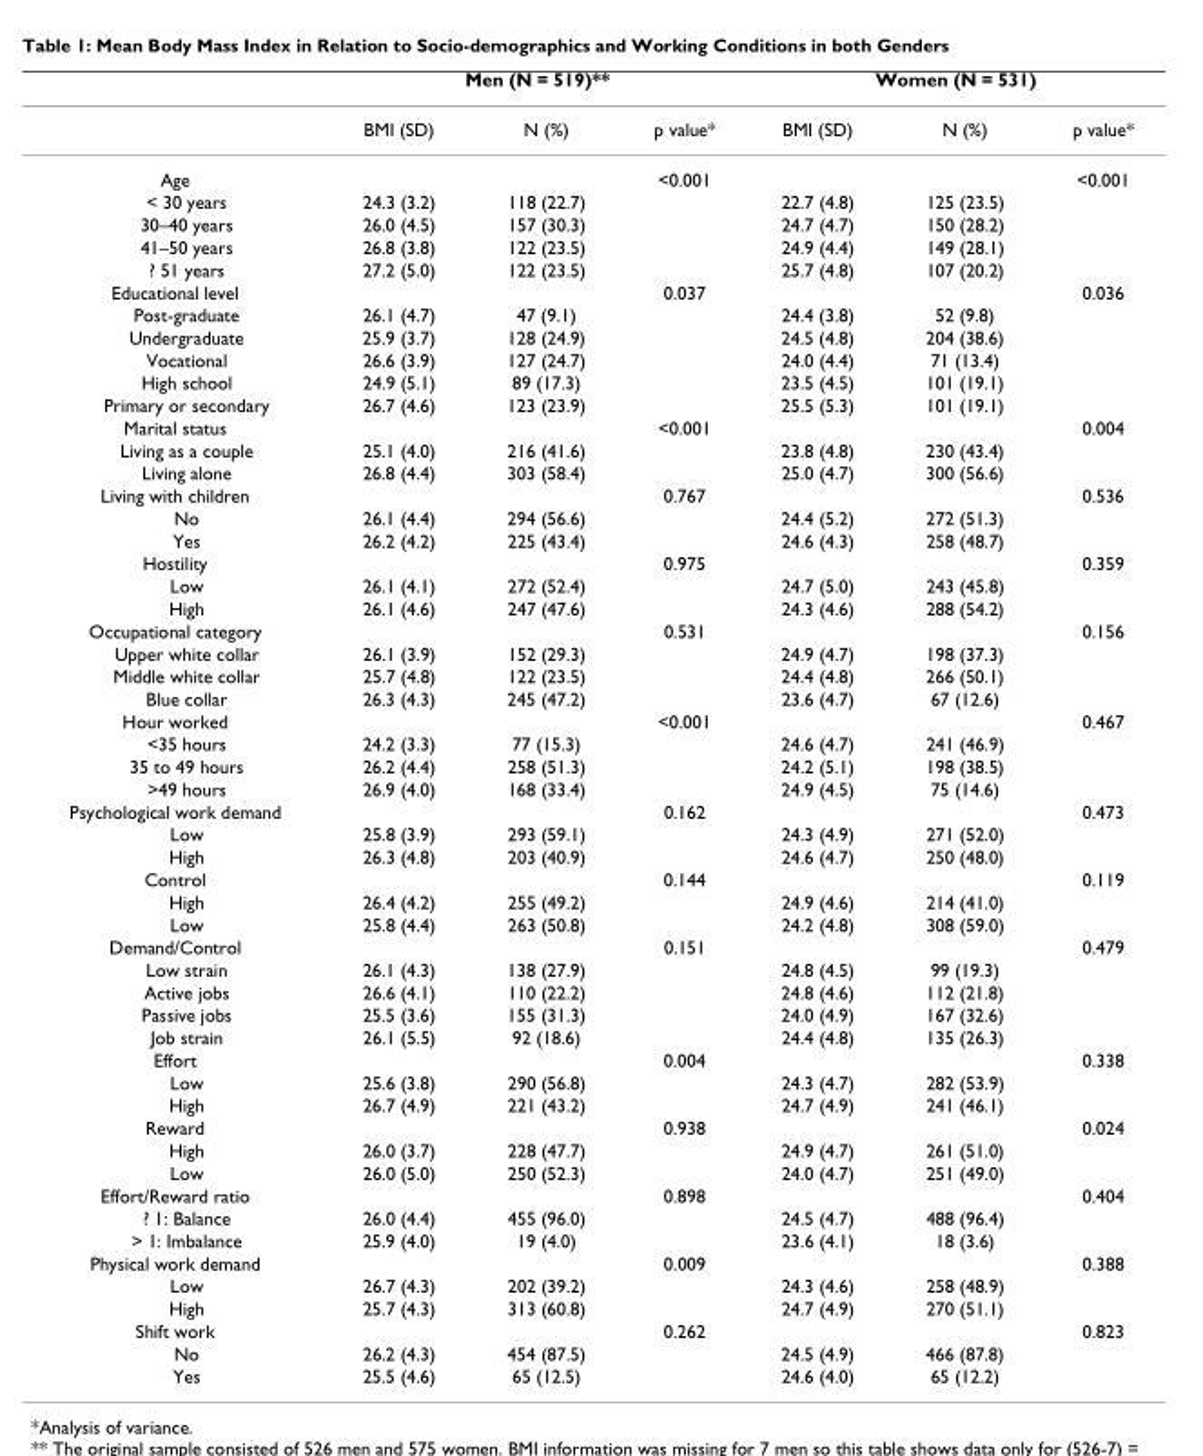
<table><thead><tr><td rowspan="2"></td><td colspan="3">Men (N = 519)**</td><td colspan="3">Women (N = 531)</td></tr><tr><td>BMI (SD)</td><td>N (%)</td><td>p value*</td><td>BMI (SD)</td><td>N (%)</td><td>p value*</td></tr></thead><tbody><tr><td>Age</td><td></td><td></td><td>&lt;0.001</td><td></td><td></td><td>&lt;0.001</td></tr><tr><td>&lt; 30 years</td><td>24.3 (3.2)</td><td>118 (22.7)</td><td></td><td>22.7 (4.8)</td><td>125 (23.5)</td><td></td></tr><tr><td>30–40 years</td><td>26.0 (4.5)</td><td>157 (30.3)</td><td></td><td>24.7 (4.7)</td><td>150 (28.2)</td><td></td></tr><tr><td>41–50 years</td><td>26.8 (3.8)</td><td>122 (23.5)</td><td></td><td>24.9 (4.4)</td><td>149 (28.1)</td><td></td></tr><tr><td>? 51 years</td><td>27.2 (5.0)</td><td>122 (23.5)</td><td></td><td>25.7 (4.8)</td><td>107 (20.2)</td><td></td></tr><tr><td>Educational level</td><td></td><td></td><td>0.037</td><td></td><td></td><td>0.036</td></tr><tr><td>Post-graduate</td><td>26.1 (4.7)</td><td>47 (9.1)</td><td></td><td>24.4 (3.8)</td><td>52 (9.8)</td><td></td></tr><tr><td>Undergraduate</td><td>25.9 (3.7)</td><td>128 (24.9)</td><td></td><td>24.5 (4.8)</td><td>204 (38.6)</td><td></td></tr><tr><td>Vocational</td><td>26.6 (3.9)</td><td>127 (24.7)</td><td></td><td>24.0 (4.4)</td><td>71 (13.4)</td><td></td></tr><tr><td>High school</td><td>24.9 (5.1)</td><td>89 (17.3)</td><td></td><td>23.5 (4.5)</td><td>101 (19.1)</td><td></td></tr><tr><td>Primary or secondary</td><td>26.7 (4.6)</td><td>123 (23.9)</td><td></td><td>25.5 (5.3)</td><td>101 (19.1)</td><td></td></tr><tr><td>Marital status</td><td></td><td></td><td>&lt;0.001</td><td></td><td></td><td>0.004</td></tr><tr><td>Living as a couple</td><td>25.1 (4.0)</td><td>216 (41.6)</td><td></td><td>23.8 (4.8)</td><td>230 (43.4)</td><td></td></tr><tr><td>Living alone</td><td>26.8 (4.4)</td><td>303 (58.4)</td><td></td><td>25.0 (4.7)</td><td>300 (56.6)</td><td></td></tr><tr><td>Living with children</td><td></td><td></td><td>0.767</td><td></td><td></td><td>0.536</td></tr><tr><td>No</td><td>26.1 (4.4)</td><td>294 (56.6)</td><td></td><td>24.4 (5.2)</td><td>272 (51.3)</td><td></td></tr><tr><td>Yes</td><td>26.2 (4.2)</td><td>225 (43.4)</td><td></td><td>24.6 (4.3)</td><td>258 (48.7)</td><td></td></tr><tr><td>Hostility</td><td></td><td></td><td>0.975</td><td></td><td></td><td>0.359</td></tr><tr><td>Low</td><td>26.1 (4.1)</td><td>272 (52.4)</td><td></td><td>24.7 (5.0)</td><td>243 (45.8)</td><td></td></tr><tr><td>High</td><td>26.1 (4.6)</td><td>247 (47.6)</td><td></td><td>24.3 (4.6)</td><td>288 (54.2)</td><td></td></tr><tr><td>Occupational category</td><td></td><td></td><td>0.531</td><td></td><td></td><td>0.156</td></tr><tr><td>Upper white collar</td><td>26.1 (3.9)</td><td>152 (29.3)</td><td></td><td>24.9 (4.7)</td><td>198 (37.3)</td><td></td></tr><tr><td>Middle white collar</td><td>25.7 (4.8)</td><td>122 (23.5)</td><td></td><td>24.4 (4.8)</td><td>266 (50.1)</td><td></td></tr><tr><td>Blue collar</td><td>26.3 (4.3)</td><td>245 (47.2)</td><td></td><td>23.6 (4.7)</td><td>67 (12.6)</td><td></td></tr><tr><td>Hour worked</td><td></td><td></td><td>&lt;0.001</td><td></td><td></td><td>0.467</td></tr><tr><td>&lt;35 hours</td><td>24.2 (3.3)</td><td>77 (15.3)</td><td></td><td>24.6 (4.7)</td><td>241 (46.9)</td><td></td></tr><tr><td>35 to 49 hours</td><td>26.2 (4.4)</td><td>258 (51.3)</td><td></td><td>24.2 (5.1)</td><td>198 (38.5)</td><td></td></tr><tr><td>&gt;49 hours</td><td>26.9 (4.0)</td><td>168 (33.4)</td><td></td><td>24.9 (4.5)</td><td>75 (14.6)</td><td></td></tr><tr><td>Psychological work demand</td><td></td><td></td><td>0.162</td><td></td><td></td><td>0.473</td></tr><tr><td>Low</td><td>25.8 (3.9)</td><td>293 (59.1)</td><td></td><td>24.3 (4.9)</td><td>271 (52.0)</td><td></td></tr><tr><td>High</td><td>26.3 (4.8)</td><td>203 (40.9)</td><td></td><td>24.6 (4.7)</td><td>250 (48.0)</td><td></td></tr><tr><td>Control</td><td></td><td></td><td>0.144</td><td></td><td></td><td>0.119</td></tr><tr><td>High</td><td>26.4 (4.2)</td><td>255 (49.2)</td><td></td><td>24.9 (4.6)</td><td>214 (41.0)</td><td></td></tr><tr><td>Low</td><td>25.8 (4.4)</td><td>263 (50.8)</td><td></td><td>24.2 (4.8)</td><td>308 (59.0)</td><td></td></tr><tr><td>Demand/Control</td><td></td><td></td><td>0.151</td><td></td><td></td><td>0.479</td></tr><tr><td>Low strain</td><td>26.1 (4.3)</td><td>138 (27.9)</td><td></td><td>24.8 (4.5)</td><td>99 (19.3)</td><td></td></tr><tr><td>Active jobs</td><td>26.6 (4.1)</td><td>110 (22.2)</td><td></td><td>24.8 (4.6)</td><td>112 (21.8)</td><td></td></tr><tr><td>Passive jobs</td><td>25.5 (3.6)</td><td>155 (31.3)</td><td></td><td>24.0 (4.9)</td><td>167 (32.6)</td><td></td></tr><tr><td>Job strain</td><td>26.1 (5.5)</td><td>92 (18.6)</td><td></td><td>24.4 (4.8)</td><td>135 (26.3)</td><td></td></tr><tr><td>Effort</td><td></td><td></td><td>0.004</td><td></td><td></td><td>0.338</td></tr><tr><td>Low</td><td>25.6 (3.8)</td><td>290 (56.8)</td><td></td><td>24.3 (4.7)</td><td>282 (53.9)</td><td></td></tr><tr><td>High</td><td>26.7 (4.9)</td><td>221 (43.2)</td><td></td><td>24.7 (4.9)</td><td>241 (46.1)</td><td></td></tr><tr><td>Reward</td><td></td><td></td><td>0.938</td><td></td><td></td><td>0.024</td></tr><tr><td>High</td><td>26.0 (3.7)</td><td>228 (47.7)</td><td></td><td>24.9 (4.7)</td><td>261 (51.0)</td><td></td></tr><tr><td>Low</td><td>26.0 (5.0)</td><td>250 (52.3)</td><td></td><td>24.0 (4.7)</td><td>251 (49.0)</td><td></td></tr><tr><td>Effort/Reward ratio</td><td></td><td></td><td>0.898</td><td></td><td></td><td>0.404</td></tr><tr><td>? 1: Balance</td><td>26.0 (4.4)</td><td>455 (96.0)</td><td></td><td>24.5 (4.7)</td><td>488 (96.4)</td><td></td></tr><tr><td>&gt; 1: Imbalance</td><td>25.9 (4.0)</td><td>19 (4.0)</td><td></td><td>23.6 (4.1)</td><td>18 (3.6)</td><td></td></tr><tr><td>Physical work demand</td><td></td><td></td><td>0.009</td><td></td><td></td><td>0.388</td></tr><tr><td>Low</td><td>26.7 (4.3)</td><td>202 (39.2)</td><td></td><td>24.3 (4.6)</td><td>258 (48.9)</td><td></td></tr><tr><td>High</td><td>25.7 (4.3)</td><td>313 (60.8)</td><td></td><td>24.7 (4.9)</td><td>270 (51.1)</td><td></td></tr><tr><td>Shift work</td><td></td><td></td><td>0.262</td><td></td><td></td><td>0.823</td></tr><tr><td>No</td><td>26.2 (4.3)</td><td>454 (87.5)</td><td></td><td>24.5 (4.9)</td><td>466 (87.8)</td><td></td></tr><tr><td>Yes</td><td>25.5 (4.6)</td><td>65 (12.5)</td><td></td><td>24.6 (4.0)</td><td>65 (12.2)</td><td></td></tr></tbody></table>